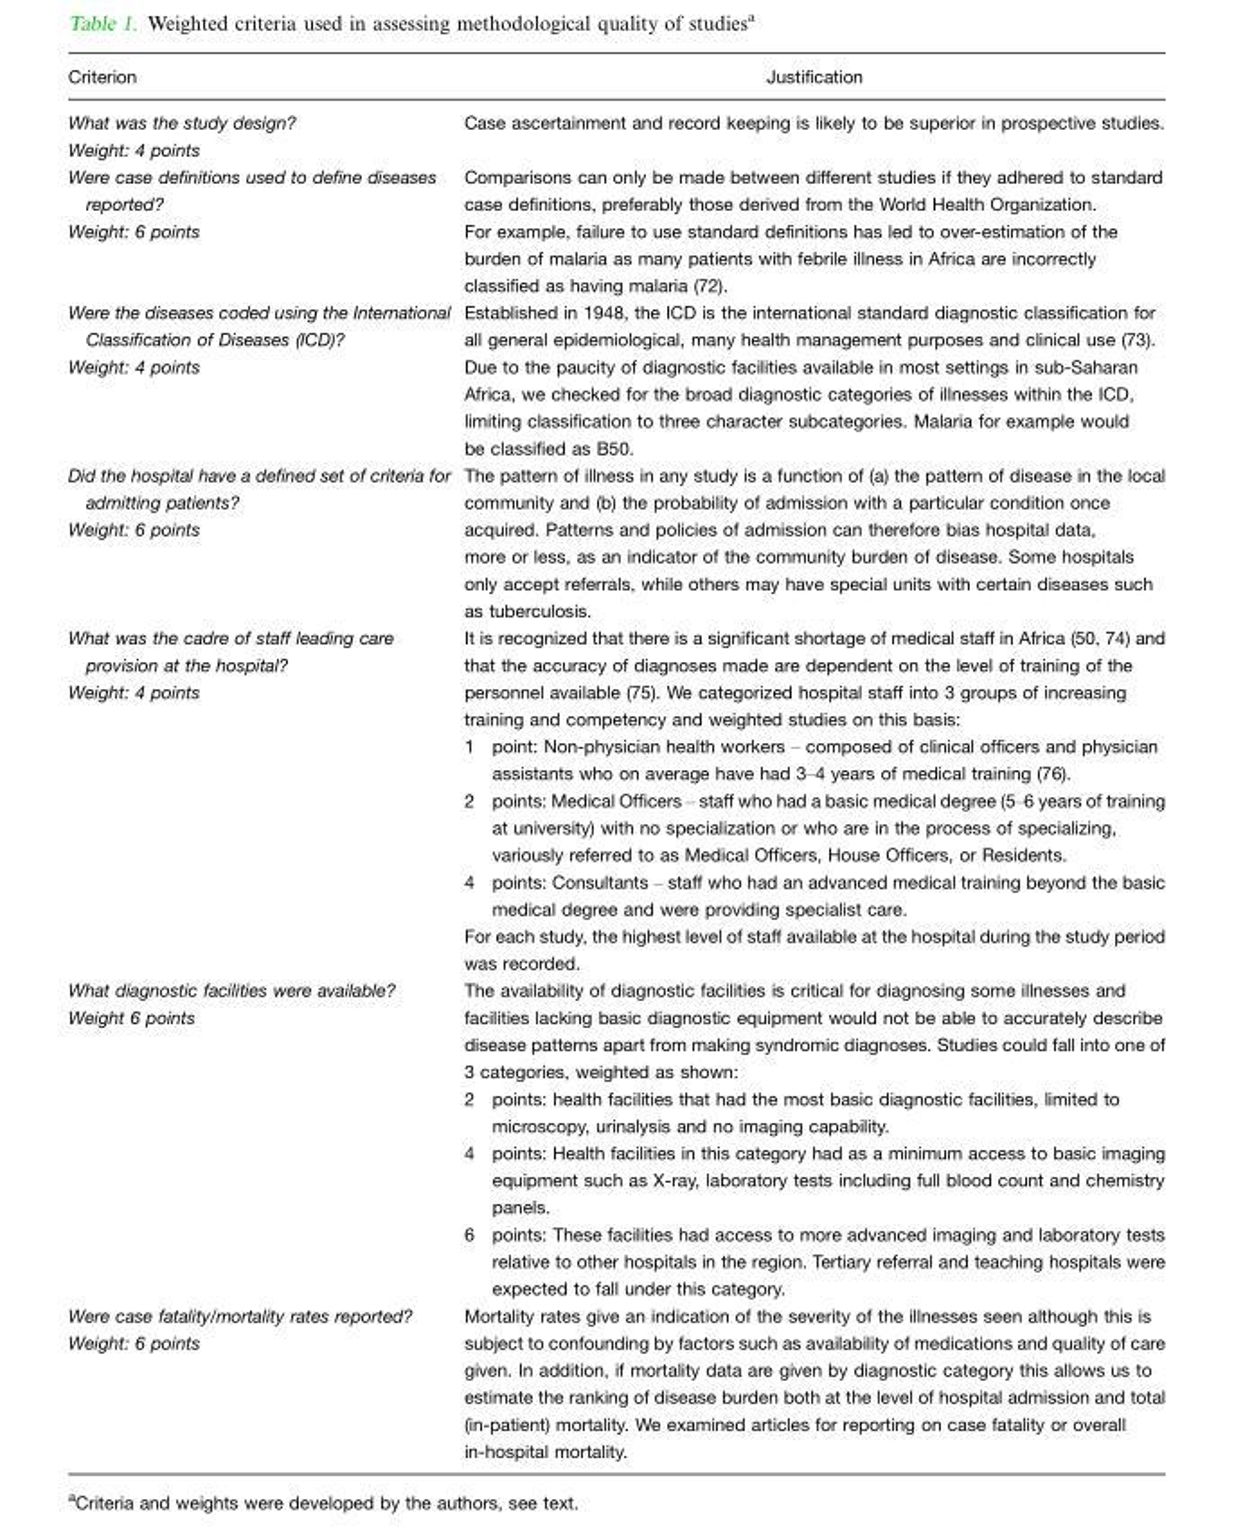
<table><thead><tr><td>Criterion</td><td>Justification</td></tr></thead><tbody><tr><td>What was the study design? Weight: 4 points</td><td>Case ascertainment and record keeping is likely to be superior in prospective studies.</td></tr><tr><td>Were case definitions used to define diseases reported? Weight: 6 points</td><td>Comparisons can only be made between different studies if they adhered to standard case definitions, preferably those derived from the World Health Organization. For example, failure to use standard definitions has led to over-estimation of the burden of malaria as many patients with febrile illness in Africa are incorrectly classified as having malaria (72).</td></tr><tr><td>Were the diseases coded using the International Classification of Diseases (ICD)? Weight: 4 points</td><td>Established in 1948, the ICD is the international standard diagnostic classification for all general epidemiological, many health management purposes and clinical use (73). Due to the paucity of diagnostic facilities available in most settings in sub-Saharan Africa, we checked for the broad diagnostic categories of illnesses within the ICD, limiting classification to three character subcategories. Malaria for example would be classified as B50.</td></tr><tr><td>Did the hospital have a defined set of criteria for admitting patients? Weight: 6 points</td><td>The pattern of illness in any study is a function of (a) the pattern of disease in the local community and (b) the probability of admission with a particular condition once acquired. Patterns and policies of admission can therefore bias hospital data, more or less, as an indicator of the community burden of disease. Some hospitals only accept referrals, while others may have special units with certain diseases such as tuberculosis.</td></tr><tr><td>What was the cadre of staff leading care provision at the hospital? Weight: 4 points</td><td>It is recognized that there is a significant shortage of medical staff in Africa (50, 74) and that the accuracy of diagnoses made are dependent on the level of training of the personnel available (75). We categorized hospital staff into 3 groups of increasing training and competency and weighted studies on this basis: 1 point: Non-physician health workers – composed of clinical officers and physician assistants who on average have had 3–4 years of medical training (76). 2 points: Medical Officers – staff who had a basic medical degree (5–6 years of training at university) with no specialization or who are in the process of specializing, variously referred to as Medical Officers, House Officers, or Residents. 4 points: Consultants – staff who had an advanced medical training beyond the basic medical degree and were providing specialist care. For each study, the highest level of staff available at the hospital during the study period was recorded.</td></tr><tr><td>What diagnostic facilities were available? Weight 6 points</td><td>The availability of diagnostic facilities is critical for diagnosing some illnesses and facilities lacking basic diagnostic equipment would not be able to accurately describe disease patterns apart from making syndromic diagnoses. Studies could fall into one of 3 categories, weighted as shown: 2 points: health facilities that had the most basic diagnostic facilities, limited to microscopy, urinalysis and no imaging capability. 4 points: Health facilities in this category had as a minimum access to basic imaging equipment such as X-ray, laboratory tests including full blood count and chemistry panels. 6 points: These facilities had access to more advanced imaging and laboratory tests relative to other hospitals in the region. Tertiary referral and teaching hospitals were expected to fall under this category.</td></tr><tr><td>Were case fatality/mortality rates reported? Weight: 6 points</td><td>Mortality rates give an indication of the severity of the illnesses seen although this is subject to confounding by factors such as availability of medications and quality of care given. In addition, if mortality data are given by diagnostic category this allows us to estimate the ranking of disease burden both at the level of hospital admission and total (in-patient) mortality. We examined articles for reporting on case fatality or overall in-hospital mortality.</td></tr></tbody></table>